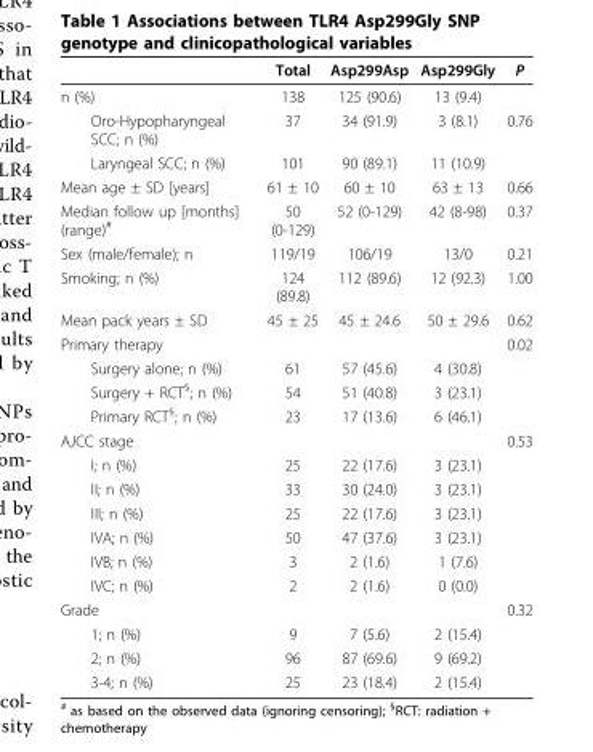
<table><thead><tr><td></td><td>Total</td><td>Asp299Asp</td><td>Asp299Gly</td><td>P</td></tr></thead><tbody><tr><td>n (%)</td><td>138</td><td>125 (90.6)</td><td>13 (9.4)</td><td></td></tr><tr><td>Oro-Hypopharyngeal SCC; n (%)</td><td>37</td><td>34 (91.9)</td><td>3 (8.1)</td><td>0.76</td></tr><tr><td>Laryngeal SCC; n (%)</td><td>101</td><td>90 (89.1)</td><td>11 (10.9)</td><td></td></tr><tr><td>Mean age ± SD [years]</td><td>61 ± 10</td><td>60 ± 10</td><td>63 ± 13</td><td>0.66</td></tr><tr><td>Median follow up [months] (range)<sup>#</sup></td><td>50 (0-129)</td><td>52 (0-129)</td><td>42 (8-98)</td><td>0.37</td></tr><tr><td>Sex (male/female); n</td><td>119/19</td><td>106/19</td><td>13/0</td><td>0.21</td></tr><tr><td>Smoking; n (%)</td><td>124 (89.8)</td><td>112 (89.6)</td><td>12 (92.3)</td><td>1.00</td></tr><tr><td>Mean pack years ± SD</td><td>45 ± 25</td><td>45 ± 24.6</td><td>50 ± 29.6</td><td>0.62</td></tr><tr><td>Primary therapy</td><td></td><td></td><td></td><td>0.02</td></tr><tr><td>Surgery alone; n (%)</td><td>61</td><td>57 (45.6)</td><td>4 (30.8)</td><td></td></tr><tr><td>Surgery + RCT<sup>§</sup>; n (%)</td><td>54</td><td>51 (40.8)</td><td>3 (23.1)</td><td></td></tr><tr><td>Primary RCT<sup>§</sup>; n (%)</td><td>23</td><td>17 (13.6)</td><td>6 (46.1)</td><td></td></tr><tr><td>AJCC stage</td><td></td><td></td><td></td><td>0.53</td></tr><tr><td>I; n (%)</td><td>25</td><td>22 (17.6)</td><td>3 (23.1)</td><td></td></tr><tr><td>II; n (%)</td><td>33</td><td>30 (24.0)</td><td>3 (23.1)</td><td></td></tr><tr><td>III; n (%)</td><td>25</td><td>22 (17.6)</td><td>3 (23.1)</td><td></td></tr><tr><td>IVA; n (%)</td><td>50</td><td>47 (37.6)</td><td>3 (23.1)</td><td></td></tr><tr><td>IVB; n (%)</td><td>3</td><td>2 (1.6)</td><td>1 (7.6)</td><td></td></tr><tr><td>IVC; n (%)</td><td>2</td><td>2 (1.6)</td><td>0 (0.0)</td><td></td></tr><tr><td>Grade</td><td></td><td></td><td></td><td>0.32</td></tr><tr><td>1; n (%)</td><td>9</td><td>7 (5.6)</td><td>2 (15.4)</td><td></td></tr><tr><td>2; n (%)</td><td>96</td><td>87 (69.6)</td><td>9 (69.2)</td><td></td></tr><tr><td>3-4; n (%)</td><td>25</td><td>23 (18.4)</td><td>2 (15.4)</td><td></td></tr></tbody></table>